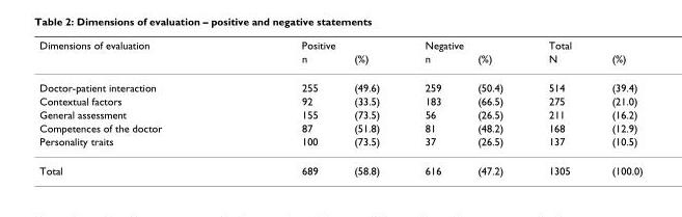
<table><thead><tr><td rowspan="2">Dimensions of evaluation</td><td colspan="2">Positive</td><td colspan="2">Negative</td><td colspan="2">Total</td></tr><tr><td>n</td><td>(%)</td><td>n</td><td>(%)</td><td>N</td><td>(%)</td></tr></thead><tbody><tr><td>Doctor-patient interaction</td><td>255</td><td>(49.6)</td><td>259</td><td>(50.4)</td><td>514</td><td>(39.4)</td></tr><tr><td>Contextual factors</td><td>92</td><td>(33.5)</td><td>183</td><td>(66.5)</td><td>275</td><td>(21.0)</td></tr><tr><td>General assessment</td><td>155</td><td>(73.5)</td><td>56</td><td>(26.5)</td><td>211</td><td>(16.2)</td></tr><tr><td>Competences of the doctor</td><td>87</td><td>(51.8)</td><td>81</td><td>(48.2)</td><td>168</td><td>(12.9)</td></tr><tr><td>Personality traits</td><td>100</td><td>(73.5)</td><td>37</td><td>(26.5)</td><td>137</td><td>(10.5)</td></tr><tr><td>Total</td><td>689</td><td>(58.8)</td><td>616</td><td>(47.2)</td><td>1305</td><td>(100.0)</td></tr></tbody></table>